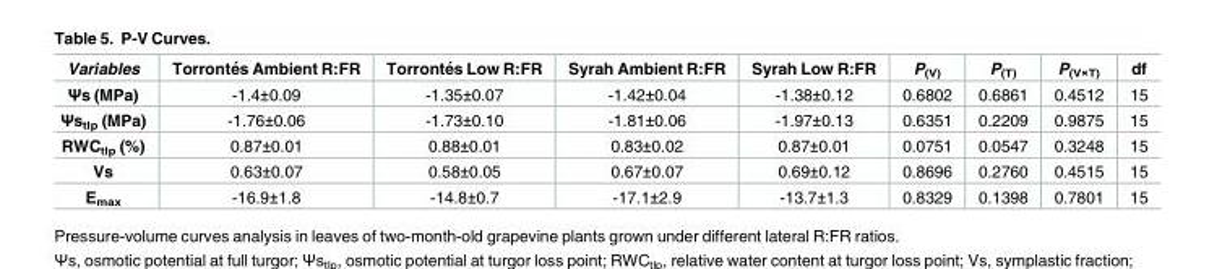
<table><thead><tr><td>Variables</td><td>Torronte´s Ambient R:FR</td><td>Torronte´s Low R:FR</td><td>Syrah Ambient R:FR</td><td>Syrah Low R:FR</td><td>P<sub>(V)</sub></td><td>P<sub>(T)</sub></td><td>P<sub>(V×T)</sub></td><td>df</td></tr></thead><tbody><tr><td>Ψs (MPa)</td><td>-1.4±0.09</td><td>-1.35±0.07</td><td>-1.42±0.04</td><td>-1.38±0.12</td><td>0.6802</td><td>0.6861</td><td>0.4512</td><td>15</td></tr><tr><td>Ψs<sub>tlp</sub> (MPa)</td><td>-1.76±0.06</td><td>-1.73±0.10</td><td>-1.81±0.06</td><td>-1.97±0.13</td><td>0.6351</td><td>0.2209</td><td>0.9875</td><td>15</td></tr><tr><td>RWC<sub>tlp</sub> (%)</td><td>0.87±0.01</td><td>0.88±0.01</td><td>0.83±0.02</td><td>0.87±0.01</td><td>0.0751</td><td>0.0547</td><td>0.3248</td><td>15</td></tr><tr><td>Vs</td><td>0.63±0.07</td><td>0.58±0.05</td><td>0.67±0.07</td><td>0.69±0.12</td><td>0.8696</td><td>0.2760</td><td>0.4515</td><td>15</td></tr><tr><td>E<sub>max</sub></td><td>-16.9±1.8</td><td>-14.8±0.7</td><td>-17.1±2.9</td><td>-13.7±1.3</td><td>0.8329</td><td>0.1398</td><td>0.7801</td><td>15</td></tr></tbody></table>